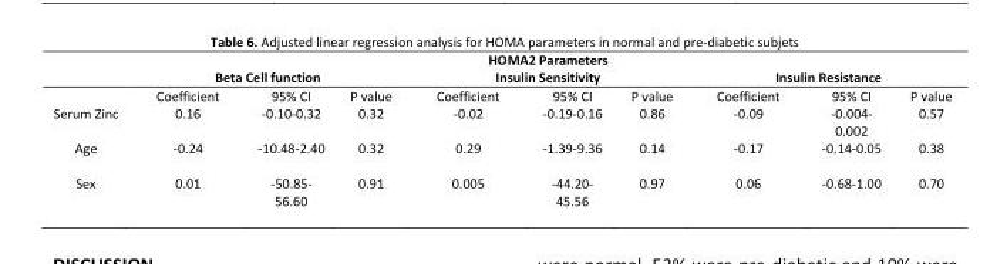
<table><thead><tr><td rowspan="3"></td><td colspan="9">HOMA2 Parameters</td></tr><tr><td colspan="3">Beta Cell function</td><td colspan="3">Insulin Sensitivity</td><td colspan="3">Insulin Resistance</td></tr><tr><td>Coefficient</td><td>95% CI</td><td>P value</td><td>Coefficient</td><td>95% CI</td><td>P value</td><td>Coefficient</td><td>95% CI</td><td>P value</td></tr></thead><tbody><tr><td>Serum Zinc</td><td>0.16</td><td>-0.10-0.32</td><td>0.32</td><td>-0.02</td><td>-0.19-0.16</td><td>0.86</td><td>-0.09</td><td>-0.004- 0.002</td><td>0.57</td></tr><tr><td>Age</td><td>-0.24</td><td>-10.48-2.40</td><td>0.32</td><td>0.29</td><td>-1.39-9.36</td><td>0.14</td><td>-0.17</td><td>-0.14-0.05</td><td>0.38</td></tr><tr><td>Sex</td><td>0.01</td><td>-50.85- 56.60</td><td>0.91</td><td>0.005</td><td>-44.20- 45.56</td><td>0.97</td><td>0.06</td><td>-0.68-1.00</td><td>0.70</td></tr></tbody></table>